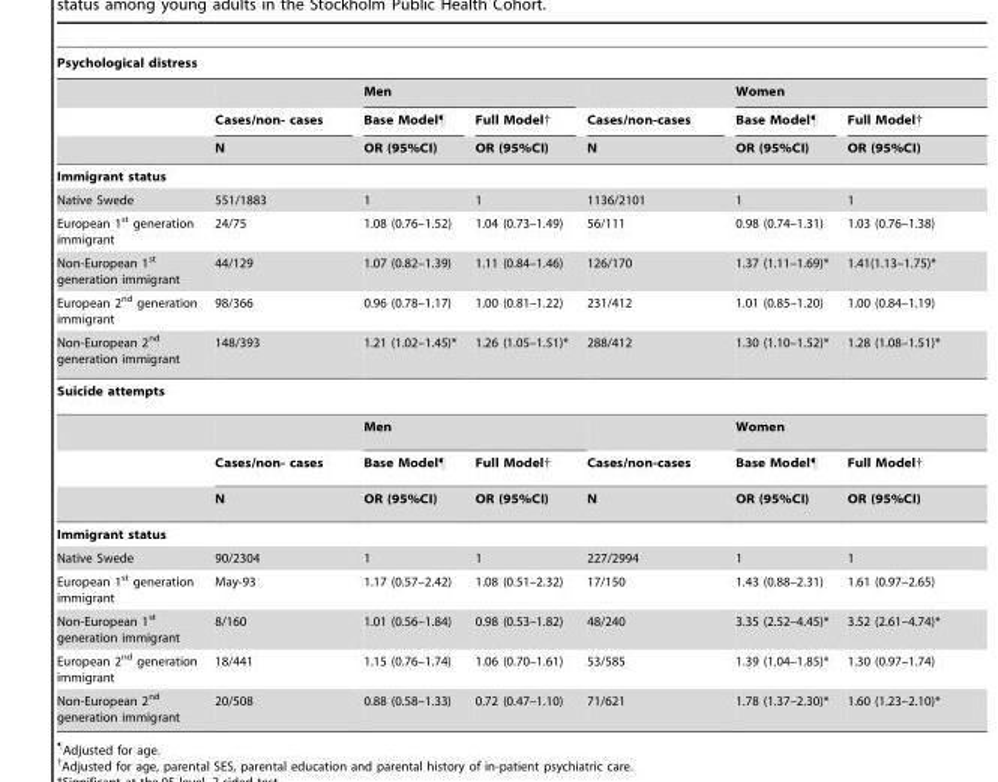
<table><thead><tr><td colspan="7">Psychological distress</td></tr><tr><td rowspan="3"></td><td rowspan="3">Cases/non- cases N</td><td colspan="2">Men</td><td rowspan="3">Cases/non-cases N</td><td colspan="2">Women</td></tr><tr><td rowspan="2">Base Model¶ OR (95%CI)</td><td rowspan="2">Full Model† OR (95%CI)</td><td rowspan="2">Base Model¶ OR (95%CI)</td><td rowspan="2">Full Model† OR (95%CI)</td></tr><tr></tr></thead><tbody><tr><td colspan="7">Immigrant status</td></tr><tr><td>Native Swede</td><td>551/1883</td><td>1</td><td>1</td><td>1136/2101</td><td>1</td><td>1</td></tr><tr><td>European 1<sup>st</sup> generation immigrant</td><td>24/75</td><td>1.08 (0.76–1.52)</td><td>1.04 (0.73–1.49)</td><td>56/111</td><td>0.98 (0.74–1.31)</td><td>1.03 (0.76–1.38)</td></tr><tr><td>Non-European 1<sup>st</sup> generation immigrant</td><td>44/129</td><td>1.07 (0.82–1.39)</td><td>1.11 (0.84–1.46)</td><td>126/170</td><td>1.37 (1.11–1.69)*</td><td>1.41(1.13–1.75)*</td></tr><tr><td>European 2<sup>nd</sup> generation immigrant</td><td>98/366</td><td>0.96 (0.78–1.17)</td><td>1.00 (0.81–1.22)</td><td>231/412</td><td>1.01 (0.85–1.20)</td><td>1.00 (0.84–1.19)</td></tr><tr><td>Non-European 2<sup>nd</sup> generation immigrant</td><td>148/393</td><td>1.21 (1.02–1.45)*</td><td>1.26 (1.05–1.51)*</td><td>288/412</td><td>1.30 (1.10–1.52)*</td><td>1.28 (1.08–1.51)*</td></tr><tr><td colspan="7">Suicide attempts</td></tr><tr><td></td><td></td><td colspan="2">Men</td><td></td><td colspan="2">Women</td></tr><tr><td></td><td>Cases/non- cases</td><td>Base Model¶</td><td>Full Model†</td><td>Cases/non-cases</td><td>Base Model¶</td><td>Full Model†</td></tr><tr><td></td><td>N</td><td>OR (95%CI)</td><td>OR (95%CI)</td><td>N</td><td>OR (95%CI)</td><td>OR (95%CI)</td></tr><tr><td colspan="7">Immigrant status</td></tr><tr><td>Native Swede</td><td>90/2304</td><td>1</td><td>1</td><td>227/2994</td><td>1</td><td>1</td></tr><tr><td>European 1<sup>st</sup> generation immigrant</td><td>May-93</td><td>1.17 (0.57–2.42)</td><td>1.08 (0.51–2.32)</td><td>17/150</td><td>1.43 (0.88–2.31)</td><td>1.61 (0.97–2.65)</td></tr><tr><td>Non-European 1<sup>st</sup> generation immigrant</td><td>8/160</td><td>1.01 (0.56–1.84)</td><td>0.98 (0.53–1.82)</td><td>48/240</td><td>3.35 (2.52–4.45)*</td><td>3.52 (2.61–4.74)*</td></tr><tr><td>European 2<sup>nd</sup> generation immigrant</td><td>18/441</td><td>1.15 (0.76–1.74)</td><td>1.06 (0.70–1.61)</td><td>53/585</td><td>1.39 (1.04–1.85)*</td><td>1.30 (0.97–1.74)</td></tr><tr><td>Non-European 2<sup>nd</sup> generation immigrant</td><td>20/508</td><td>0.88 (0.58–1.33)</td><td>0.72 (0.47–1.10)</td><td>71/621</td><td>1.78 (1.37–2.30)*</td><td>1.60 (1.23–2.10)*</td></tr></tbody></table>